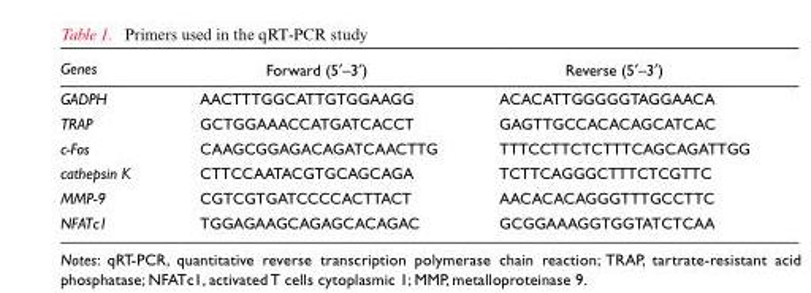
<table><thead><tr><td>Genes</td><td>Forward (5′–3′)</td><td>Reverse (5′–3′)</td></tr></thead><tbody><tr><td>GADPH</td><td>AACTTTGGCATTGTGGAAGG</td><td>ACACATTGGGGGTAGGAACA</td></tr><tr><td>TRAP</td><td>GCTGGAAACCATGATCACCT</td><td>GAGTTGCCACACAGCATCAC</td></tr><tr><td>c-Fos</td><td>CAAGCGGAGACAGATCAACTTG</td><td>TTTCCTTCTCTTTCAGCAGATTGG</td></tr><tr><td>cathepsin K</td><td>CTTCCAATACGTGCAGCAGA</td><td>TCTTCAGGGCTTTCTCGTTC</td></tr><tr><td>MMP-9</td><td>CGTCGTGATCCCCACTTACT</td><td>AACACACAGGGTTTGCCTTC</td></tr><tr><td>NFATc1</td><td>TGGAGAAGCAGAGCACAGAC</td><td>GCGGAAAGGTGGTATCTCAA</td></tr></tbody></table>